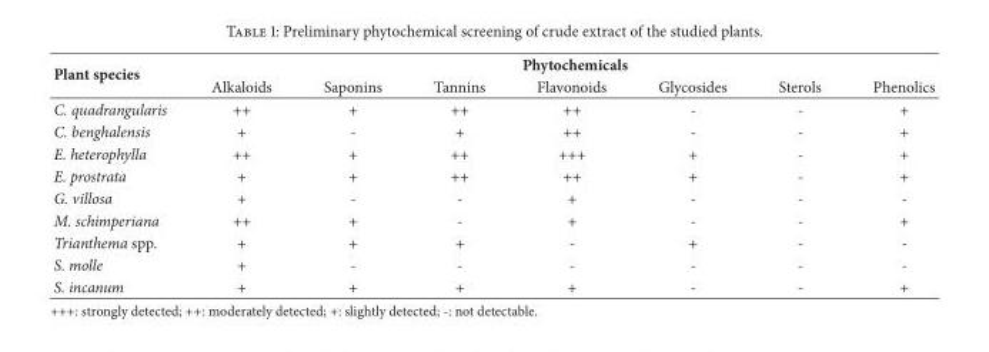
<table><thead><tr><td rowspan="2">Plant species</td><td colspan="7">Phytochemicals</td></tr><tr><td>Alkaloids</td><td>Saponins</td><td>Tannins</td><td>Flavonoids</td><td>Glycosides</td><td>Sterols</td><td>Phenolics</td></tr></thead><tbody><tr><td>C. quadrangularis</td><td>++</td><td>+</td><td>++</td><td>++</td><td>-</td><td>-</td><td>+</td></tr><tr><td>C. benghalensis</td><td>+</td><td>-</td><td>+</td><td>++</td><td>-</td><td>-</td><td>+</td></tr><tr><td>E. heterophylla</td><td>++</td><td>+</td><td>++</td><td>+++</td><td>+</td><td>-</td><td>+</td></tr><tr><td>E. prostrata</td><td>+</td><td>+</td><td>++</td><td>++</td><td>+</td><td>-</td><td>+</td></tr><tr><td>G. villosa</td><td>+</td><td>-</td><td>-</td><td>+</td><td>-</td><td>-</td><td>-</td></tr><tr><td>M. schimperiana</td><td>++</td><td>+</td><td>-</td><td>+</td><td>-</td><td>-</td><td>+</td></tr><tr><td>Trianthema spp.</td><td>+</td><td>+</td><td>+</td><td>-</td><td>+</td><td>-</td><td>-</td></tr><tr><td>S. molle</td><td>+</td><td>-</td><td>-</td><td>-</td><td>-</td><td>-</td><td>-</td></tr><tr><td>S. incanum</td><td>+</td><td>+</td><td>+</td><td>+</td><td>-</td><td>-</td><td>+</td></tr></tbody></table>